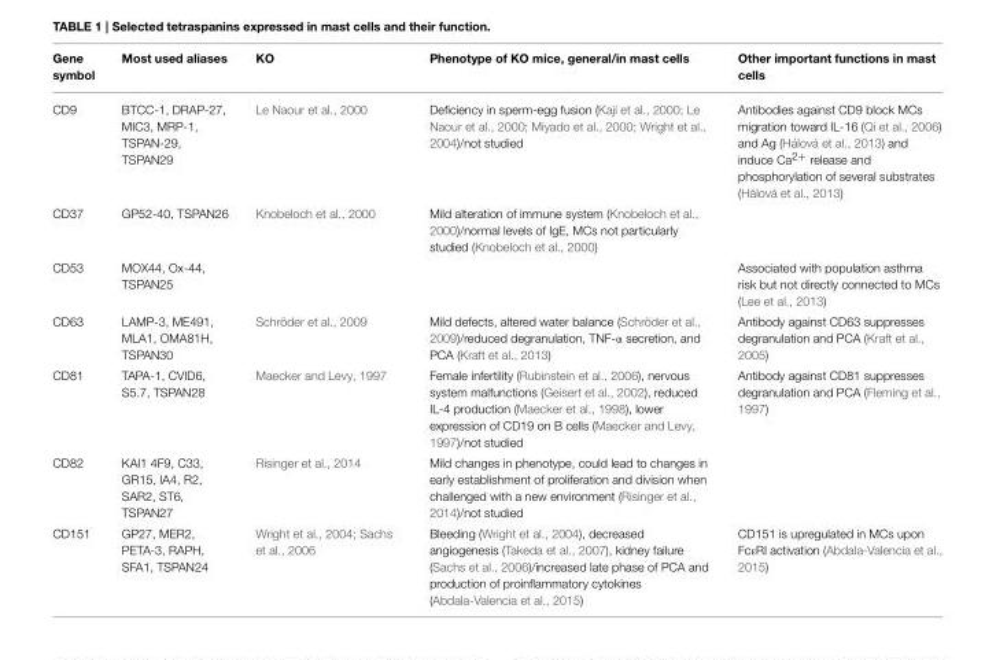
<table><thead><tr><td>Gene symbol</td><td>Most used aliases</td><td>KO</td><td>Phenotype of KO mice, general/in mast cells</td><td>Other important functions in mast cells</td></tr></thead><tbody><tr><td>CD9</td><td>BTCC-1, DRAP-27, MIC3, MRP-1, TSPAN-29, TSPAN29</td><td>Le Naour et al., 2000</td><td>Deficiency in sperm-egg fusion (Kaji et al., 2000; Le Naour et al., 2000; Miyado et al., 2000; Wright et al., 2004)/not studied</td><td>Antibodies against CD9 block MCs migration toward IL-16 (Qi et al., 2006) and Ag (Hálová et al., 2013) and induce Ca<sup>2+</sup> release and phosphorylation of several substrates (Hálová et al., 2013)</td></tr><tr><td>CD37</td><td>GP52-40, TSPAN26</td><td>Knobeloch et al., 2000</td><td>Mild alteration of immune system (Knobeloch et al., 2000)/normal levels of IgE, MCs not particularly studied (Knobeloch et al., 2000)</td><td></td></tr><tr><td>CD53</td><td>MOX44, Ox-44, TSPAN25</td><td></td><td></td><td>Associated with population asthma risk but not directly connected to MCs (Lee et al., 2013)</td></tr><tr><td>CD63</td><td>LAMP-3, ME491, MLA1, OMA81H, TSPAN30</td><td>Schröder et al., 2009</td><td>Mild defects, altered water balance (Schröder et al., 2009)/reduced degranulation, TNF-α secretion, and PCA (Kraft et al., 2013)</td><td>Antibody against CD63 suppresses degranulation and PCA (Kraft et al., 2005)</td></tr><tr><td>CD81</td><td>TAPA-1, CVID6, S5.7, TSPAN28</td><td>Maecker and Levy, 1997</td><td>Female infertility (Rubinstein et al., 2006), nervous system malfunctions (Geisert et al., 2002), reduced IL-4 production (Maecker et al., 1998), lower expression of CD19 on B cells (Maecker and Levy, 1997)/not studied</td><td>Antibody against CD81 suppresses degranulation and PCA (Fleming et al., 1997)</td></tr><tr><td>CD82</td><td>KAI1 4F9, C33, GR15, IA4, R2, SAR2, ST6, TSPAN27</td><td>Risinger et al., 2014</td><td>Mild changes in phenotype, could lead to changes in early establishment of proliferation and division when challenged with a new environment (Risinger et al., 2014)/not studied</td><td></td></tr><tr><td>CD151</td><td>GP27, MER2, PETA-3, RAPH, SFA1, TSPAN24</td><td>Wright et al., 2004; Sachs et al., 2006</td><td>Bleeding (Wright et al., 2004), decreased angiogenesis (Takeda et al., 2007), kidney failure (Sachs et al., 2006)/increased late phase of PCA and production of proinflammatory cytokines (Abdala-Valencia et al., 2015)</td><td>CD151 is upregulated in MCs upon FcεRI activation (Abdala-Valencia et al., 2015)</td></tr></tbody></table>